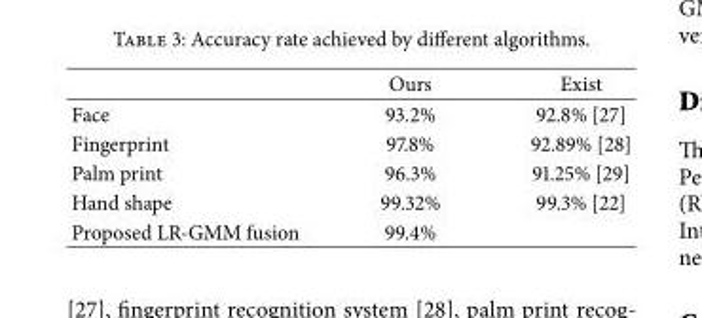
<table><thead><tr><td></td><td>Ours</td><td>Exist</td></tr></thead><tbody><tr><td>Face</td><td>93.2%</td><td>92.8% [27]</td></tr><tr><td>Fingerprint</td><td>97.8%</td><td>92.89% [28]</td></tr><tr><td>Palm print</td><td>96.3%</td><td>91.25% [29]</td></tr><tr><td>Hand shape</td><td>99.32%</td><td>99.3% [22]</td></tr><tr><td>Proposed LR-GMM fusion</td><td>99.4%</td><td></td></tr></tbody></table>